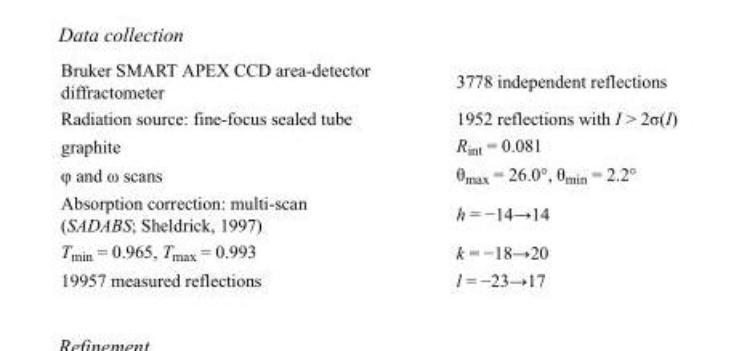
<table><tbody><tr><td>Bruker SMART APEX CCD area-detector diffractometer</td><td>3778 independent reflections</td></tr><tr><td>Radiation source: fine-focus sealed tube</td><td>1952 reflections with I &gt; 2σ(I)</td></tr><tr><td>graphite</td><td>R<sub>int</sub> = 0.081</td></tr><tr><td>φ and ω scans</td><td>θ<sub>max</sub> = 26.0°, θ<sub>min</sub> = 2.2°</td></tr><tr><td>Absorption correction: multi-scan (SADABS; Sheldrick, 1997)</td><td>h = −14→14</td></tr><tr><td>T<sub>min</sub> = 0.965, T<sub>max</sub> = 0.993</td><td>k = −18→20</td></tr><tr><td>19957 measured reflections</td><td>l = −23→17</td></tr></tbody></table>